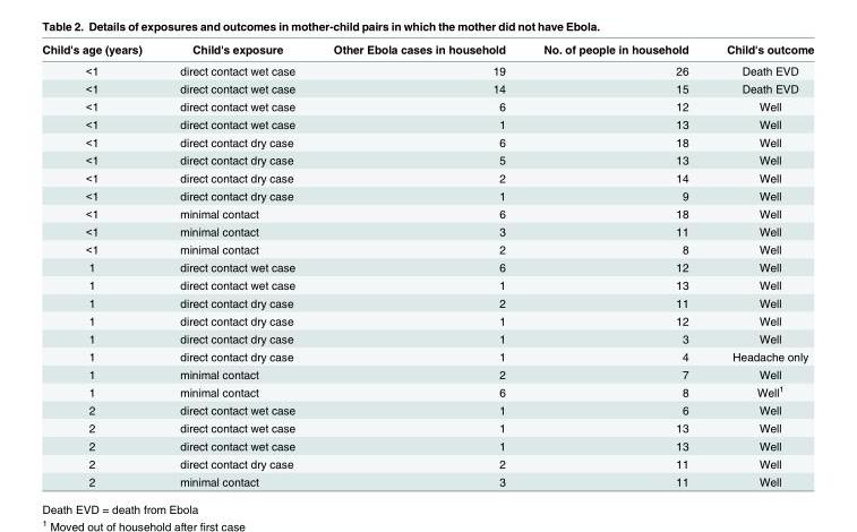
<table><thead><tr><td>Child&#x27;s age (years)</td><td>Child&#x27;s exposure</td><td>Other Ebola cases in household</td><td>No. of people in household</td><td>Child&#x27;s outcome</td></tr></thead><tbody><tr><td>&lt;1</td><td>direct contact wet case</td><td>19</td><td>26</td><td>Death EVD</td></tr><tr><td>&lt;1</td><td>direct contact wet case</td><td>14</td><td>15</td><td>Death EVD</td></tr><tr><td>&lt;1</td><td>direct contact wet case</td><td>6</td><td>12</td><td>Well</td></tr><tr><td>&lt;1</td><td>direct contact wet case</td><td>1</td><td>13</td><td>Well</td></tr><tr><td>&lt;1</td><td>direct contact dry case</td><td>6</td><td>18</td><td>Well</td></tr><tr><td>&lt;1</td><td>direct contact dry case</td><td>5</td><td>13</td><td>Well</td></tr><tr><td>&lt;1</td><td>direct contact dry case</td><td>2</td><td>14</td><td>Well</td></tr><tr><td>&lt;1</td><td>direct contact dry case</td><td>1</td><td>9</td><td>Well</td></tr><tr><td>&lt;1</td><td>minimal contact</td><td>6</td><td>18</td><td>Well</td></tr><tr><td>&lt;1</td><td>minimal contact</td><td>3</td><td>11</td><td>Well</td></tr><tr><td>&lt;1</td><td>minimal contact</td><td>2</td><td>8</td><td>Well</td></tr><tr><td>1</td><td>direct contact wet case</td><td>6</td><td>12</td><td>Well</td></tr><tr><td>1</td><td>direct contact wet case</td><td>1</td><td>13</td><td>Well</td></tr><tr><td>1</td><td>direct contact dry case</td><td>2</td><td>11</td><td>Well</td></tr><tr><td>1</td><td>direct contact dry case</td><td>1</td><td>12</td><td>Well</td></tr><tr><td>1</td><td>direct contact dry case</td><td>1</td><td>3</td><td>Well</td></tr><tr><td>1</td><td>direct contact dry case</td><td>1</td><td>4</td><td>Headache only</td></tr><tr><td>1</td><td>minimal contact</td><td>2</td><td>7</td><td>Well</td></tr><tr><td>1</td><td>minimal contact</td><td>6</td><td>8</td><td>Well<sup>1</sup></td></tr><tr><td>2</td><td>direct contact wet case</td><td>1</td><td>6</td><td>Well</td></tr><tr><td>2</td><td>direct contact wet case</td><td>1</td><td>13</td><td>Well</td></tr><tr><td>2</td><td>direct contact wet case</td><td>1</td><td>13</td><td>Well</td></tr><tr><td>2</td><td>direct contact dry case</td><td>2</td><td>11</td><td>Well</td></tr><tr><td>2</td><td>minimal contact</td><td>3</td><td>11</td><td>Well</td></tr></tbody></table>